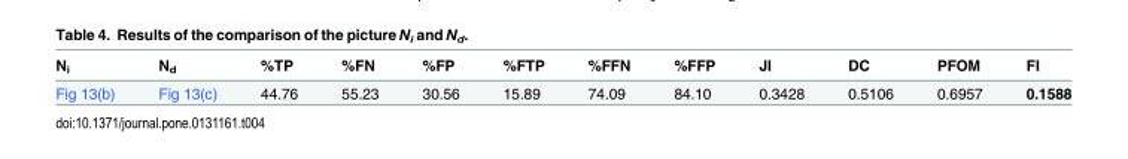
<table><thead><tr><td>N<sub>i</sub></td><td>N<sub>d</sub></td><td>%TP</td><td>%FN</td><td>%FP</td><td>%FTP</td><td>%FFN</td><td>%FFP</td><td>JI</td><td>DC</td><td>PFOM</td><td>FI</td></tr></thead><tbody><tr><td>Fig 13(b)</td><td>Fig 13(c)</td><td>44.76</td><td>55.23</td><td>30.56</td><td>15.89</td><td>74.09</td><td>84.10</td><td>0.3428</td><td>0.5106</td><td>0.6957</td><td>0.1588</td></tr></tbody></table>